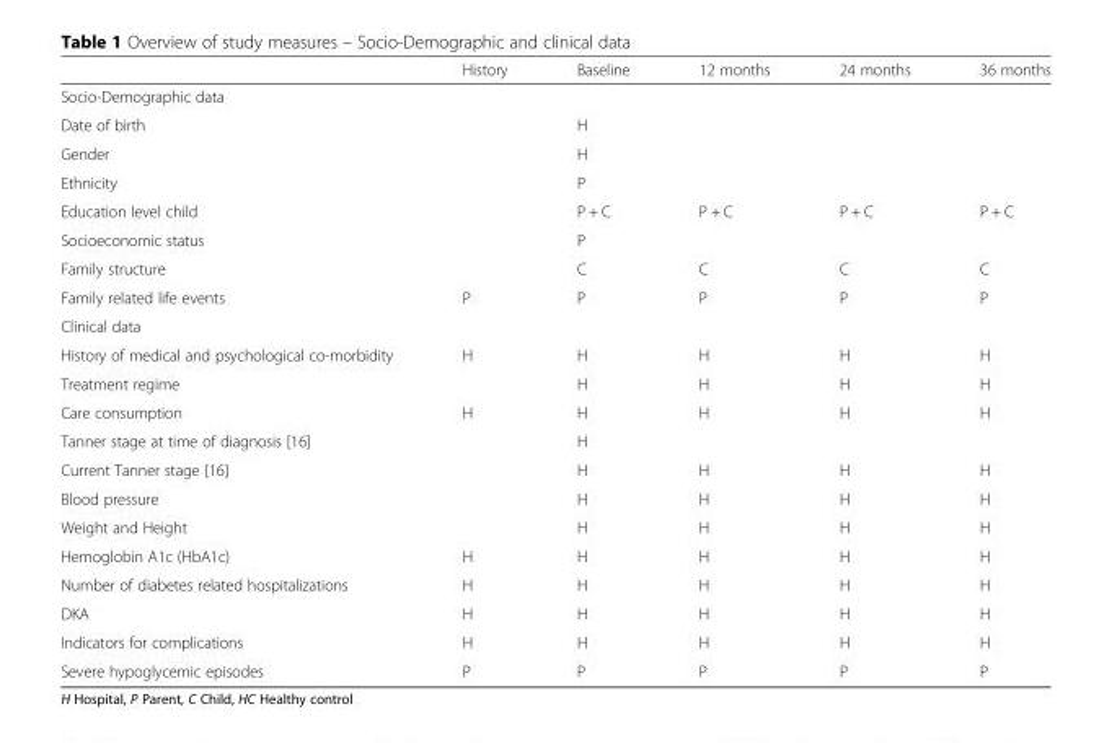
<table><thead><tr><td></td><td>History</td><td>Baseline</td><td>12 months</td><td>24 months</td><td>36 months</td></tr></thead><tbody><tr><td colspan="6">Socio-Demographic data</td></tr><tr><td>Date of birth</td><td></td><td>H</td><td></td><td></td><td></td></tr><tr><td>Gender</td><td></td><td>H</td><td></td><td></td><td></td></tr><tr><td>Ethnicity</td><td></td><td>P</td><td></td><td></td><td></td></tr><tr><td>Education level child</td><td></td><td>P + C</td><td>P + C</td><td>P + C</td><td>P + C</td></tr><tr><td>Socioeconomic status</td><td></td><td>P</td><td></td><td></td><td></td></tr><tr><td>Family structure</td><td></td><td>C</td><td>C</td><td>C</td><td>C</td></tr><tr><td>Family related life events</td><td>P</td><td>P</td><td>P</td><td>P</td><td>P</td></tr><tr><td colspan="6">Clinical data</td></tr><tr><td>History of medical and psychological co-morbidity</td><td>H</td><td>H</td><td>H</td><td>H</td><td>H</td></tr><tr><td>Treatment regime</td><td></td><td>H</td><td>H</td><td>H</td><td>H</td></tr><tr><td>Care consumption</td><td>H</td><td>H</td><td>H</td><td>H</td><td>H</td></tr><tr><td>Tanner stage at time of diagnosis [16]</td><td></td><td>H</td><td></td><td></td><td></td></tr><tr><td>Current Tanner stage [16]</td><td></td><td>H</td><td>H</td><td>H</td><td>H</td></tr><tr><td>Blood pressure</td><td></td><td>H</td><td>H</td><td>H</td><td>H</td></tr><tr><td>Weight and Height</td><td></td><td>H</td><td>H</td><td>H</td><td>H</td></tr><tr><td>Hemoglobin A1c (HbA1c)</td><td>H</td><td>H</td><td>H</td><td>H</td><td>H</td></tr><tr><td>Number of diabetes related hospitalizations</td><td>H</td><td>H</td><td>H</td><td>H</td><td>H</td></tr><tr><td>DKA</td><td>H</td><td>H</td><td>H</td><td>H</td><td>H</td></tr><tr><td>Indicators for complications</td><td>H</td><td>H</td><td>H</td><td>H</td><td>H</td></tr><tr><td>Severe hypoglycemic episodes</td><td>P</td><td>P</td><td>P</td><td>P</td><td>P</td></tr></tbody></table>